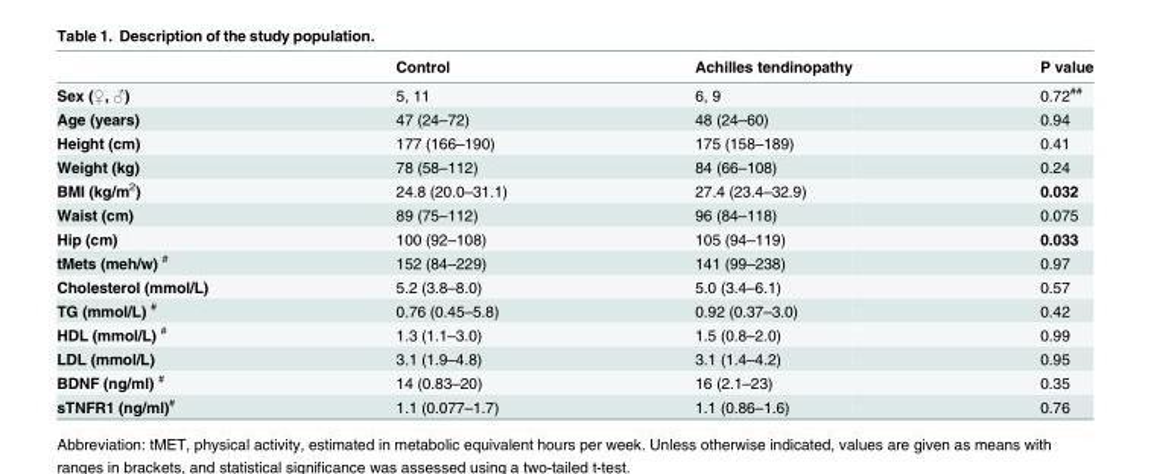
<table><thead><tr><td></td><td>Control</td><td>Achilles tendinopathy</td><td>P value</td></tr></thead><tbody><tr><td>Sex (♀, ♂)</td><td>5, 11</td><td>6, 9</td><td>0.72<sup>##</sup></td></tr><tr><td>Age (years)</td><td>47 (24–72)</td><td>48 (24–60)</td><td>0.94</td></tr><tr><td>Height (cm)</td><td>177 (166–190)</td><td>175 (158–189)</td><td>0.41</td></tr><tr><td>Weight (kg)</td><td>78 (58–112)</td><td>84 (66–108)</td><td>0.24</td></tr><tr><td>BMI (kg/m<sup>2</sup>)</td><td>24.8 (20.0–31.1)</td><td>27.4 (23.4–32.9)</td><td>0.032</td></tr><tr><td>Waist (cm)</td><td>89 (75–112)</td><td>96 (84–118)</td><td>0.075</td></tr><tr><td>Hip (cm)</td><td>100 (92–108)</td><td>105 (94–119)</td><td>0.033</td></tr><tr><td>tMets (meh/w) <sup>#</sup></td><td>152 (84–229)</td><td>141 (99–238)</td><td>0.97</td></tr><tr><td>Cholesterol (mmol/L)</td><td>5.2 (3.8–8.0)</td><td>5.0 (3.4–6.1)</td><td>0.57</td></tr><tr><td>TG (mmol/L) <sup>#</sup></td><td>0.76 (0.45–5.8)</td><td>0.92 (0.37–3.0)</td><td>0.42</td></tr><tr><td>HDL (mmol/L) <sup>#</sup></td><td>1.3 (1.1–3.0)</td><td>1.5 (0.8–2.0)</td><td>0.99</td></tr><tr><td>LDL (mmol/L)</td><td>3.1 (1.9–4.8)</td><td>3.1 (1.4–4.2)</td><td>0.95</td></tr><tr><td>BDNF (ng/ml) <sup>#</sup></td><td>14 (0.83–20)</td><td>16 (2.1–23)</td><td>0.35</td></tr><tr><td>sTNFR1 (ng/ml)<sup>#</sup></td><td>1.1 (0.077–1.7)</td><td>1.1 (0.86–1.6)</td><td>0.76</td></tr></tbody></table>